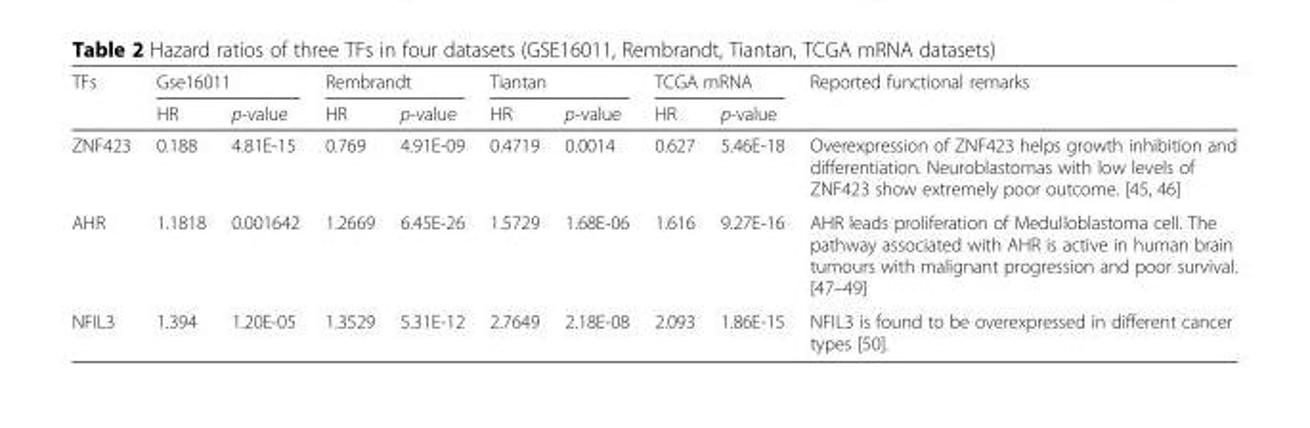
<table><thead><tr><td rowspan="2">TFs</td><td colspan="2">Gse16011</td><td colspan="2">Rembrandt</td><td colspan="2">Tiantan</td><td colspan="2">TCGA mRNA</td><td rowspan="2">Reported functional remarks</td></tr><tr><td>HR</td><td>p-value</td><td>HR</td><td>p-value</td><td>HR</td><td>p-value</td><td>HR</td><td>p-value</td></tr></thead><tbody><tr><td>ZNF423</td><td>0.188</td><td>4.81E-15</td><td>0.769</td><td>4.91E-09</td><td>0.4719</td><td>0.0014</td><td>0.627</td><td>5.46E-18</td><td>Overexpression of ZNF423 helps growth inhibition and differentiation. Neuroblastomas with low levels of ZNF423 show extremely poor outcome. [45, 46]</td></tr><tr><td>AHR</td><td>1.1818</td><td>0.001642</td><td>1.2669</td><td>6.45E-26</td><td>1.5729</td><td>1.68E-06</td><td>1.616</td><td>9.27E-16</td><td>AHR leads proliferation of Medulloblastoma cell. The pathway associated with AHR is active in human brain tumours with malignant progression and poor survival. [47–49]</td></tr><tr><td>NFIL3</td><td>1.394</td><td>1.20E-05</td><td>1.3529</td><td>5.31E-12</td><td>2.7649</td><td>2.18E-08</td><td>2.093</td><td>1.86E-15</td><td>NFIL3 is found to be overexpressed in different cancer types [50].</td></tr></tbody></table>